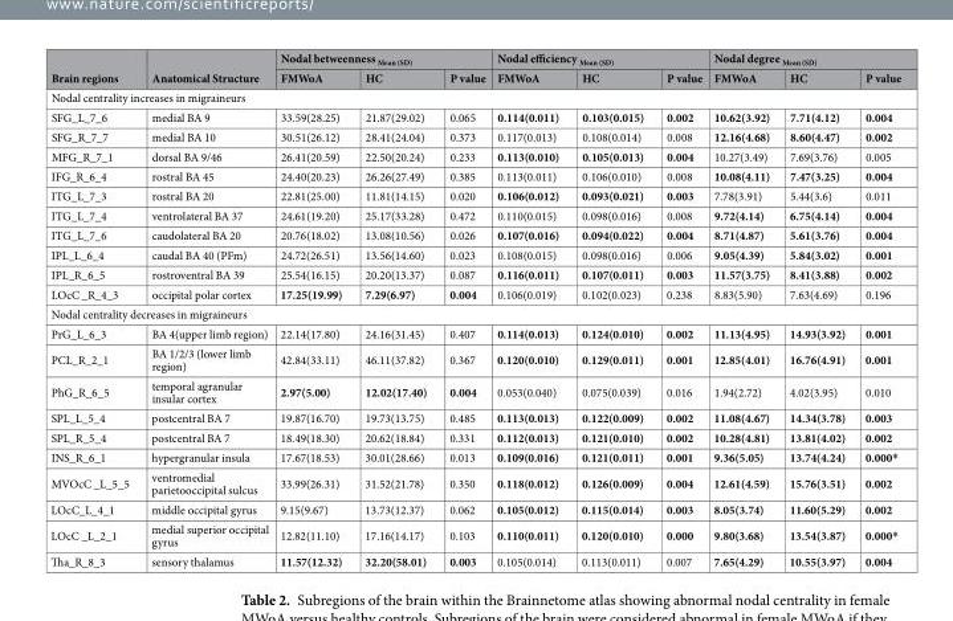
<table><thead><tr><td rowspan="2">Brain regions</td><td rowspan="2">Anatomical Structure</td><td colspan="3">Nodal betweenness <sub>Mean (SD)</sub></td><td colspan="3">Nodal efficiency <sub>Mean (SD)</sub></td><td colspan="3">Nodal degree <sub>Mean (SD)</sub></td></tr><tr><td>FMWoA</td><td>HC</td><td>P value</td><td>FMWoA</td><td>HC</td><td>P value</td><td>FMWoA</td><td>HC</td><td>P value</td></tr></thead><tbody><tr><td colspan="11">Nodal centrality increases in migraineurs</td></tr><tr><td>SFG_L_7_6</td><td>medial BA 9</td><td>33.59(28.25)</td><td>21.87(29.02)</td><td>0.065</td><td>0.114(0.011)</td><td>0.103(0.015)</td><td>0.002</td><td>10.62(3.92)</td><td>7.71(4.12)</td><td>0.004</td></tr><tr><td>SFG_R_7_7</td><td>medial BA 10</td><td>30.51(26.12)</td><td>28.41(24.04)</td><td>0.373</td><td>0.117(0.013)</td><td>0.108(0.014)</td><td>0.008</td><td>12.16(4.68)</td><td>8.60(4.47)</td><td>0.002</td></tr><tr><td>MFG_R_7_1</td><td>dorsal BA 9/46</td><td>26.41(20.59)</td><td>22.50(20.24)</td><td>0.233</td><td>0.113(0.010)</td><td>0.105(0.013)</td><td>0.004</td><td>10.27(3.49)</td><td>7.69(3.76)</td><td>0.005</td></tr><tr><td>IFG_R_6_4</td><td>rostral BA 45</td><td>24.40(20.23)</td><td>26.26(27.49)</td><td>0.385</td><td>0.113(0.011)</td><td>0.106(0.010)</td><td>0.008</td><td>10.08(4.11)</td><td>7.47(3.25)</td><td>0.004</td></tr><tr><td>ITG_L_7_3</td><td>rostral BA 20</td><td>22.81(25.00)</td><td>11.81(14.15)</td><td>0.020</td><td>0.106(0.012)</td><td>0.093(0.021)</td><td>0.003</td><td>7.78(3.91)</td><td>5.44(3.6)</td><td>0.011</td></tr><tr><td>ITG_L_7_4</td><td>ventrolateral BA 37</td><td>24.61(19.20)</td><td>25.17(33.28)</td><td>0.472</td><td>0.110(0.015)</td><td>0.098(0.016)</td><td>0.008</td><td>9.72(4.14)</td><td>6.75(4.14)</td><td>0.004</td></tr><tr><td>ITG_L_7_6</td><td>caudolateral BA 20</td><td>20.76(18.02)</td><td>13.08(10.56)</td><td>0.026</td><td>0.107(0.016)</td><td>0.094(0.022)</td><td>0.004</td><td>8.71(4.87)</td><td>5.61(3.76)</td><td>0.004</td></tr><tr><td>IPL_L_6_4</td><td>caudal BA 40 (PFm)</td><td>24.72(26.51)</td><td>13.56(14.60)</td><td>0.023</td><td>0.108(0.015)</td><td>0.098(0.016)</td><td>0.006</td><td>9.05(4.39)</td><td>5.84(3.02)</td><td>0.001</td></tr><tr><td>IPL_R_6_5</td><td>rostroventral BA 39</td><td>25.54(16.15)</td><td>20.20(13.37)</td><td>0.087</td><td>0.116(0.011)</td><td>0.107(0.011)</td><td>0.003</td><td>11.57(3.75)</td><td>8.41(3.88)</td><td>0.002</td></tr><tr><td>LOcC _R_4_3</td><td>occipital polar cortex</td><td>17.25(19.99)</td><td>7.29(6.97)</td><td>0.004</td><td>0.106(0.019)</td><td>0.102(0.023)</td><td>0.238</td><td>8.83(5.90)</td><td>7.63(4.69)</td><td>0.196</td></tr><tr><td colspan="11">Nodal centrality decreases in migraineurs</td></tr><tr><td>PrG_L_6_3</td><td>BA 4(upper limb region)</td><td>22.14(17.80)</td><td>24.16(31.45)</td><td>0.407</td><td>0.114(0.013)</td><td>0.124(0.010)</td><td>0.002</td><td>11.13(4.95)</td><td>14.93(3.92)</td><td>0.001</td></tr><tr><td>PCL_R_2_1</td><td>BA 1/2/3 (lower limb region)</td><td>42.84(33.11)</td><td>46.11(37.82)</td><td>0.367</td><td>0.120(0.010)</td><td>0.129(0.011)</td><td>0.001</td><td>12.85(4.01)</td><td>16.76(4.91)</td><td>0.001</td></tr><tr><td>PhG_R_6_5</td><td>temporal agranular insular cortex</td><td>2.97(5.00)</td><td>12.02(17.40)</td><td>0.004</td><td>0.053(0.040)</td><td>0.075(0.039)</td><td>0.016</td><td>1.94(2.72)</td><td>4.02(3.95)</td><td>0.010</td></tr><tr><td>SPL_L_5_4</td><td>postcentral BA 7</td><td>19.87(16.70)</td><td>19.73(13.75)</td><td>0.485</td><td>0.113(0.013)</td><td>0.122(0.009)</td><td>0.002</td><td>11.08(4.67)</td><td>14.34(3.78)</td><td>0.003</td></tr><tr><td>SPL_R_5_4</td><td>postcentral BA 7</td><td>18.49(18.30)</td><td>20.62(18.84)</td><td>0.331</td><td>0.112(0.013)</td><td>0.121(0.010)</td><td>0.002</td><td>10.28(4.81)</td><td>13.81(4.02)</td><td>0.002</td></tr><tr><td>INS_R_6_1</td><td>hypergranular insula</td><td>17.67(18.53)</td><td>30.01(28.66)</td><td>0.013</td><td>0.109(0.016)</td><td>0.121(0.011)</td><td>0.001</td><td>9.36(5.05)</td><td>13.74(4.24)</td><td>0.000*</td></tr><tr><td>MVOcC _L_5_5</td><td>ventromedial parietooccipital sulcus</td><td>33.99(26.31)</td><td>31.52(21.78)</td><td>0.350</td><td>0.118(0.012)</td><td>0.126(0.009)</td><td>0.004</td><td>12.61(4.59)</td><td>15.76(3.51)</td><td>0.002</td></tr><tr><td>LOcC_L_4_1</td><td>middle occipital gyrus</td><td>9.15(9.67)</td><td>13.73(12.37)</td><td>0.062</td><td>0.105(0.012)</td><td>0.115(0.014)</td><td>0.003</td><td>8.05(3.74)</td><td>11.60(5.29)</td><td>0.002</td></tr><tr><td>LOcC _L_2_1</td><td>medial superior occipital gyrus</td><td>12.82(11.10)</td><td>17.16(14.17)</td><td>0.103</td><td>0.110(0.011)</td><td>0.120(0.010)</td><td>0.000</td><td>9.80(3.68)</td><td>13.54(3.87)</td><td>0.000*</td></tr><tr><td>Tha_R_8_3</td><td>sensory thalamus</td><td>11.57(12.32)</td><td>32.20(58.01)</td><td>0.003</td><td>0.105(0.014)</td><td>0.113(0.011)</td><td>0.007</td><td>7.65(4.29)</td><td>10.55(3.97)</td><td>0.004</td></tr></tbody></table>